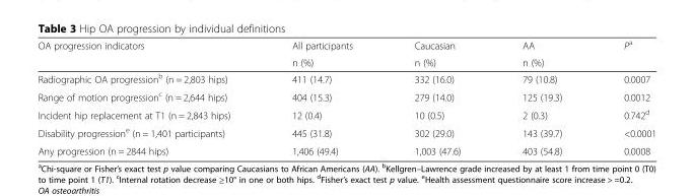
<table><thead><tr><td rowspan="2">OA progression indicators</td><td rowspan="2">All participants n (%)</td><td rowspan="2">Caucasian n (%)</td><td rowspan="2">AA n (%)</td><td rowspan="2">P<sup>a</sup></td></tr><tr></tr></thead><tbody><tr><td>Radiographic OA progression<sup>b</sup> (n = 2,803 hips)</td><td>411 (14.7)</td><td>332 (16.0)</td><td>79 (10.8)</td><td>0.0007</td></tr><tr><td>Range of motion progression<sup>c</sup> (n = 2,644 hips)</td><td>404 (15.3)</td><td>279 (14.0)</td><td>125 (19.3)</td><td>0.0012</td></tr><tr><td>Incident hip replacement at T1 (n = 2,843 hips)</td><td>12 (0.4)</td><td>10 (0.5)</td><td>2 (0.3)</td><td>0.742<sup>d</sup></td></tr><tr><td>Disability progression<sup>e</sup> (n = 1,401 participants)</td><td>445 (31.8)</td><td>302 (29.0)</td><td>143 (39.7)</td><td>&lt;0.0001</td></tr><tr><td>Any progression (n = 2844 hips)</td><td>1,406 (49.4)</td><td>1,003 (47.6)</td><td>403 (54.8)</td><td>0.0008</td></tr></tbody></table>